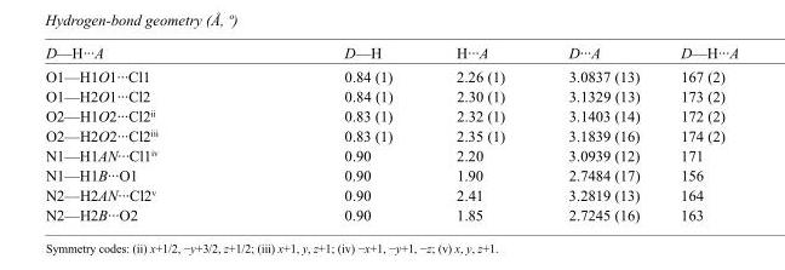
<table><tbody><tr><td>D—H···A</td><td>D—H</td><td>H···A</td><td>D···A</td><td>D—H···A</td></tr><tr><td>O1—H1O1···Cl1</td><td>0.84 (1)</td><td>2.26 (1)</td><td>3.0837 (13)</td><td>167 (2)</td></tr><tr><td>O1—H2O1···Cl2</td><td>0.84 (1)</td><td>2.30 (1)</td><td>3.1329 (13)</td><td>173 (2)</td></tr><tr><td>O2—H1O2···Cl2<sup>ii</sup></td><td>0.83 (1)</td><td>2.32 (1)</td><td>3.1403 (14)</td><td>172 (2)</td></tr><tr><td>O2—H2O2···Cl2<sup>iii</sup></td><td>0.83 (1)</td><td>2.35 (1)</td><td>3.1839 (16)</td><td>174 (2)</td></tr><tr><td>N1—H1AN···Cl1<sup>iv</sup></td><td>0.90</td><td>2.20</td><td>3.0939 (12)</td><td>171</td></tr><tr><td>N1—H1B···O1</td><td>0.90</td><td>1.90</td><td>2.7484 (17)</td><td>156</td></tr><tr><td>N2—H2AN···Cl2<sup>v</sup></td><td>0.90</td><td>2.41</td><td>3.2819 (13)</td><td>164</td></tr><tr><td>N2—H2B···O2</td><td>0.90</td><td>1.85</td><td>2.7245 (16)</td><td>163</td></tr></tbody></table>